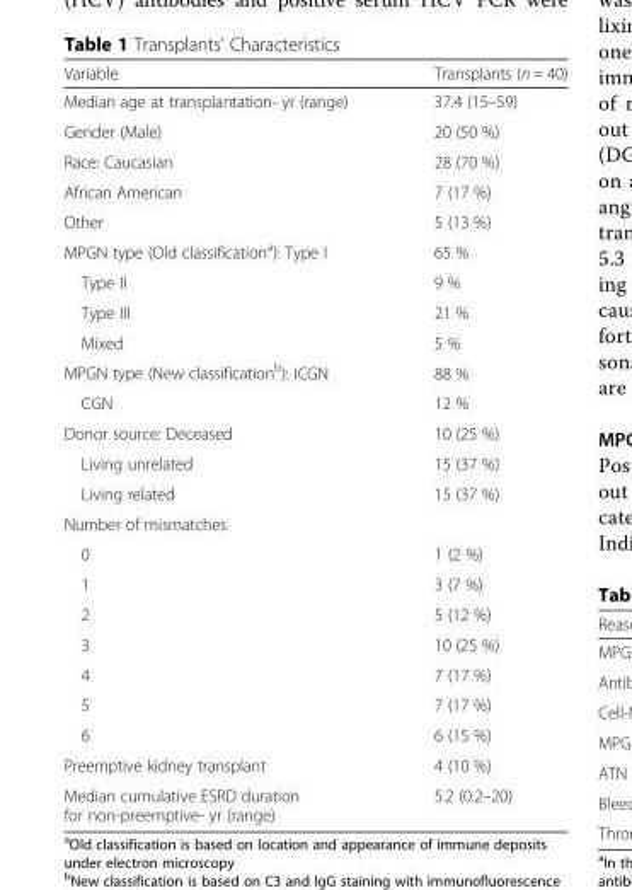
<table><thead><tr><td>Variable</td><td>Transplants (n = 40)</td></tr></thead><tbody><tr><td>Median age at transplantation- yr (range)</td><td>37.4 (15–59)</td></tr><tr><td>Gender (Male)</td><td>20 (50 %)</td></tr><tr><td>Race: Caucasian</td><td>28 (70 %)</td></tr><tr><td>African American</td><td>7 (17 %)</td></tr><tr><td>Other</td><td>5 (13 %)</td></tr><tr><td>MPGN type (Old classification<sup>a</sup>): Type I</td><td>65 %</td></tr><tr><td>Type II</td><td>9 %</td></tr><tr><td>Type III</td><td>21 %</td></tr><tr><td>Mixed</td><td>5 %</td></tr><tr><td>MPGN type (New classification<sup>b</sup>): ICGN</td><td>88 %</td></tr><tr><td>CGN</td><td>12 %</td></tr><tr><td>Donor source: Deceased</td><td>10 (25 %)</td></tr><tr><td>Living unrelated</td><td>15 (37 %)</td></tr><tr><td>Living related</td><td>15 (37 %)</td></tr><tr><td colspan="2">Number of mismatches</td></tr><tr><td>0</td><td>1 (2 %)</td></tr><tr><td>1</td><td>3 (7 %)</td></tr><tr><td>2</td><td>5 (12 %)</td></tr><tr><td>3</td><td>10 (25 %)</td></tr><tr><td>4</td><td>7 (17 %)</td></tr><tr><td>5</td><td>7 (17 %)</td></tr><tr><td>6</td><td>6 (15 %)</td></tr><tr><td>Preemptive kidney transplant</td><td>4 (10 %)</td></tr><tr><td>Median cumulative ESRD duration for non-preemptive- yr (range)</td><td>5.2 (0.2–20)</td></tr></tbody></table>